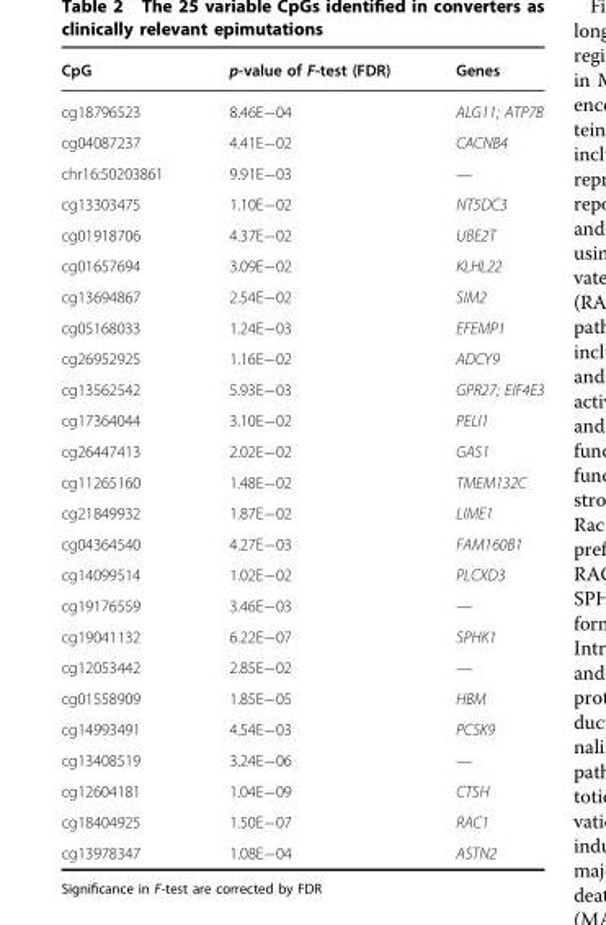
<table><thead><tr><td>CpG</td><td>p-value of F-test (FDR)</td><td>Genes</td></tr></thead><tbody><tr><td>cg18796523</td><td>8.46E−04</td><td>ALG11; ATP7B</td></tr><tr><td>cg04087237</td><td>4.41E−02</td><td>CACNB4</td></tr><tr><td>chr16:50203861</td><td>9.91E−03</td><td>—</td></tr><tr><td>cg13303475</td><td>1.10E−02</td><td>NT5DC3</td></tr><tr><td>cg01918706</td><td>4.37E−02</td><td>UBE2T</td></tr><tr><td>cg01657694</td><td>3.09E−02</td><td>KLHL22</td></tr><tr><td>cg13694867</td><td>2.54E−02</td><td>SIM2</td></tr><tr><td>cg05168033</td><td>1.24E−03</td><td>EFEMP1</td></tr><tr><td>cg26952925</td><td>1.16E−02</td><td>ADCY9</td></tr><tr><td>cg13562542</td><td>5.93E−03</td><td>GPR27; EIF4E3</td></tr><tr><td>cg17364044</td><td>3.10E−02</td><td>PELI1</td></tr><tr><td>cg26447413</td><td>2.02E−02</td><td>GAS1</td></tr><tr><td>cg11265160</td><td>1.48E−02</td><td>TMEM132C</td></tr><tr><td>cg21849932</td><td>1.87E−02</td><td>LIME1</td></tr><tr><td>cg04364540</td><td>4.27E−03</td><td>FAM160B1</td></tr><tr><td>cg14099514</td><td>1.02E−02</td><td>PLCXD3</td></tr><tr><td>cg19176559</td><td>3.46E−03</td><td>—</td></tr><tr><td>cg19041132</td><td>6.22E−07</td><td>SPHK1</td></tr><tr><td>cg12053442</td><td>2.85E−02</td><td>—</td></tr><tr><td>cg01558909</td><td>1.85E−05</td><td>HBM</td></tr><tr><td>cg14993491</td><td>4.54E−03</td><td>PCSK9</td></tr><tr><td>cg13408519</td><td>3.24E−06</td><td>—</td></tr><tr><td>cg12604181</td><td>1.04E−09</td><td>CTSH</td></tr><tr><td>cg18404925</td><td>1.50E−07</td><td>RAC1</td></tr><tr><td>cg13978347</td><td>1.08E−04</td><td>ASTN2</td></tr></tbody></table>